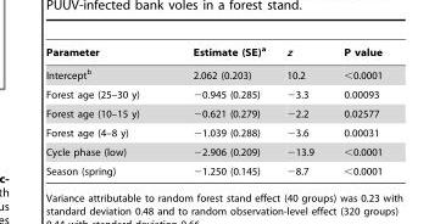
<table><thead><tr><td>Parameter</td><td>Estimate (SE)<sup>a</sup></td><td>z</td><td>P value</td></tr></thead><tbody><tr><td>Intercept<sup>b</sup></td><td>2.062 (0.203)</td><td>10.2</td><td>&lt;0.0001</td></tr><tr><td>Forest age (25–30 y)</td><td>−0.945 (0.285)</td><td>−3.3</td><td>0.00093</td></tr><tr><td>Forest age (10–15 y)</td><td>−0.621 (0.279)</td><td>−2.2</td><td>0.02577</td></tr><tr><td>Forest age (4–8 y)</td><td>−1.039 (0.288)</td><td>−3.6</td><td>0.00031</td></tr><tr><td>Cycle phase (low)</td><td>−2.906 (0.209)</td><td>−13.9</td><td>&lt;0.0001</td></tr><tr><td>Season (spring)</td><td>−1.250 (0.145)</td><td>−8.7</td><td>&lt;0.0001</td></tr></tbody></table>